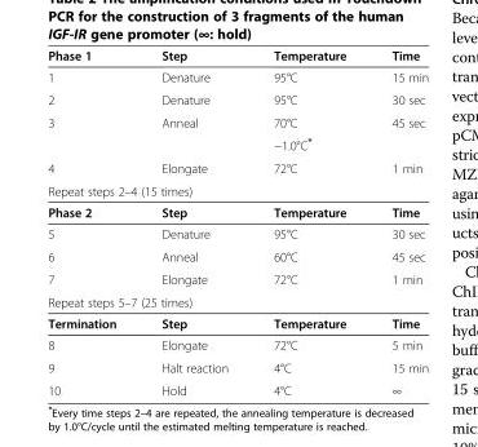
<table><thead><tr><td>Phase 1</td><td>Step</td><td>Temperature</td><td>Time</td></tr></thead><tbody><tr><td>1</td><td>Denature</td><td>95°C</td><td>15 min</td></tr><tr><td>2</td><td>Denature</td><td>95°C</td><td>30 sec</td></tr><tr><td rowspan="2">3</td><td>Anneal</td><td>70°C</td><td>45 sec</td></tr><tr><td></td><td>−1.0°C*</td><td></td></tr><tr><td>4</td><td>Elongate</td><td>72°C</td><td>1 min</td></tr><tr><td colspan="4">Repeat steps 2–4 (15 times)</td></tr><tr><td>Phase 2</td><td>Step</td><td>Temperature</td><td>Time</td></tr><tr><td>5</td><td>Denature</td><td>95°C</td><td>30 sec</td></tr><tr><td>6</td><td>Anneal</td><td>60°C</td><td>45 sec</td></tr><tr><td>7</td><td>Elongate</td><td>72°C</td><td>1 min</td></tr><tr><td colspan="4">Repeat steps 5–7 (25 times)</td></tr><tr><td>Termination</td><td>Step</td><td>Temperature</td><td>Time</td></tr><tr><td>8</td><td>Elongate</td><td>72°C</td><td>5 min</td></tr><tr><td>9</td><td>Halt reaction</td><td>4°C</td><td>15 min</td></tr><tr><td>10</td><td>Hold</td><td>4°C</td><td>∞</td></tr></tbody></table>